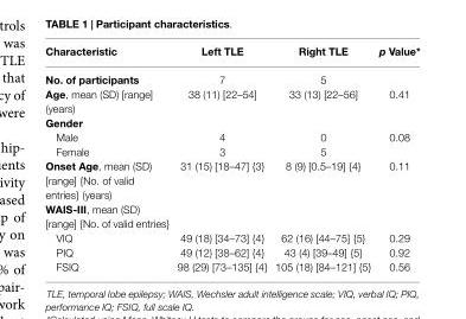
<table><thead><tr><td>Characteristic</td><td>Left TLE</td><td>Right TLE</td><td>p Value*</td></tr></thead><tbody><tr><td>No. of participants</td><td>7</td><td>5</td><td></td></tr><tr><td>Age, mean (SD) [range] (years)</td><td>38 (11) [22–54]</td><td>33 (13) [22–56]</td><td>0.41</td></tr><tr><td colspan="4">Gender</td></tr><tr><td>Male</td><td>4</td><td>0</td><td>0.08</td></tr><tr><td>Female</td><td>3</td><td>5</td><td></td></tr><tr><td>Onset Age, mean (SD) [range] {No. of valid entries} (years)</td><td>31 (15) [18–47] {3}</td><td>8 (9) [0.5–19] {4}</td><td>0.11</td></tr><tr><td colspan="4">WAIS-III, mean (SD) [range] {No. of valid entries}</td></tr><tr><td>VIQ</td><td>49 (18) [34–73] {4}</td><td>62 (16) [44–75] {5}</td><td>0.29</td></tr><tr><td>PIQ</td><td>49 (12) [38–62] {4}</td><td>43 (4) [39–49] {5}</td><td>0.92</td></tr><tr><td>FSIQ</td><td>98 (29) [73–135] {4}</td><td>105 (18) [84–121] {5}</td><td>0.56</td></tr></tbody></table>